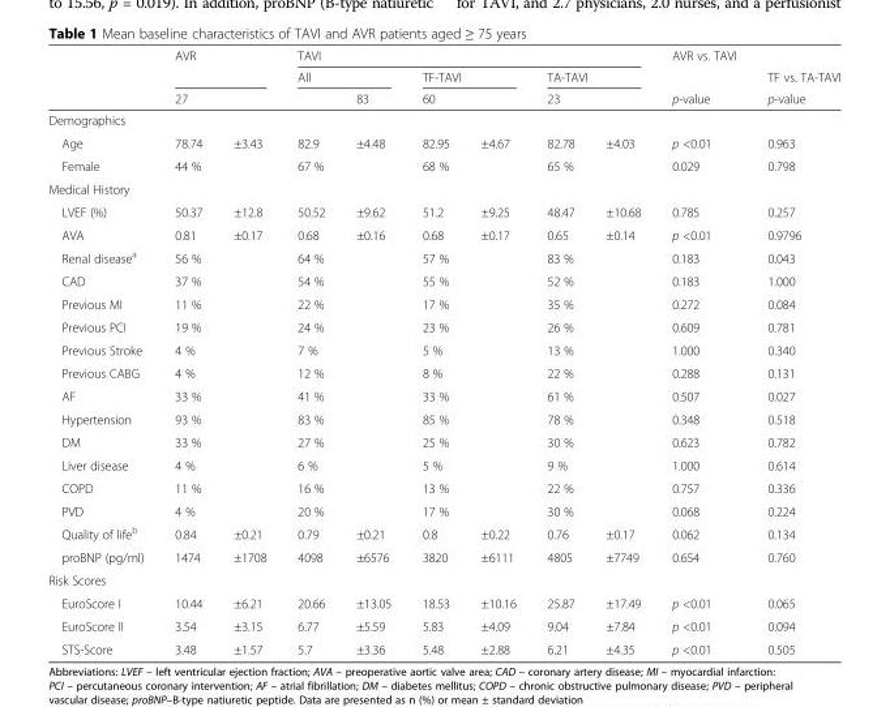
<table><thead><tr><td rowspan="4">Demographics</td><td rowspan="2">AVR</td><td rowspan="2"></td><td colspan="6">TAVI</td><td rowspan="4">AVR vs. TAVI p-value</td><td rowspan="4">TF vs. TA-TAVI p-value</td></tr><tr><td colspan="2">All</td><td rowspan="2" colspan="2">TF-TAVI 60</td><td rowspan="2" colspan="2">TA-TAVI 23</td></tr><tr><td colspan="2">27</td><td rowspan="2"></td><td rowspan="2">83</td></tr><tr><td></td><td></td><td></td><td></td><td></td><td></td></tr></thead><tbody><tr><td>Age</td><td>78.74</td><td>±3.43</td><td>82.9</td><td>±4.48</td><td>82.95</td><td>±4.67</td><td>82.78</td><td>±4.03</td><td>p &lt;0.01</td><td>0.963</td></tr><tr><td>Female</td><td>44 %</td><td></td><td>67 %</td><td></td><td>68 %</td><td></td><td>65 %</td><td></td><td>0.029</td><td>0.798</td></tr><tr><td colspan="11">Medical History</td></tr><tr><td>LVEF (%)</td><td>50.37</td><td>±12.8</td><td>50.52</td><td>±9.62</td><td>51.2</td><td>±9.25</td><td>48.47</td><td>±10.68</td><td>0.785</td><td>0.257</td></tr><tr><td>AVA</td><td>0.81</td><td>±0.17</td><td>0.68</td><td>±0.16</td><td>0.68</td><td>±0.17</td><td>0.65</td><td>±0.14</td><td>p &lt;0.01</td><td>0.9796</td></tr><tr><td>Renal disease<sup>a</sup></td><td>56 %</td><td></td><td>64 %</td><td></td><td>57 %</td><td></td><td>83 %</td><td></td><td>0.183</td><td>0.043</td></tr><tr><td>CAD</td><td>37 %</td><td></td><td>54 %</td><td></td><td>55 %</td><td></td><td>52 %</td><td></td><td>0.183</td><td>1.000</td></tr><tr><td>Previous MI</td><td>11 %</td><td></td><td>22 %</td><td></td><td>17 %</td><td></td><td>35 %</td><td></td><td>0.272</td><td>0.084</td></tr><tr><td>Previous PCI</td><td>19 %</td><td></td><td>24 %</td><td></td><td>23 %</td><td></td><td>26 %</td><td></td><td>0.609</td><td>0.781</td></tr><tr><td>Previous Stroke</td><td>4 %</td><td></td><td>7 %</td><td></td><td>5 %</td><td></td><td>13 %</td><td></td><td>1.000</td><td>0.340</td></tr><tr><td>Previous CABG</td><td>4 %</td><td></td><td>12 %</td><td></td><td>8 %</td><td></td><td>22 %</td><td></td><td>0.288</td><td>0.131</td></tr><tr><td>AF</td><td>33 %</td><td></td><td>41 %</td><td></td><td>33 %</td><td></td><td>61 %</td><td></td><td>0.507</td><td>0.027</td></tr><tr><td>Hypertension</td><td>93 %</td><td></td><td>83 %</td><td></td><td>85 %</td><td></td><td>78 %</td><td></td><td>0.348</td><td>0.518</td></tr><tr><td>DM</td><td>33 %</td><td></td><td>27 %</td><td></td><td>25 %</td><td></td><td>30 %</td><td></td><td>0.623</td><td>0.782</td></tr><tr><td>Liver disease</td><td>4 %</td><td></td><td>6 %</td><td></td><td>5 %</td><td></td><td>9 %</td><td></td><td>1.000</td><td>0.614</td></tr><tr><td>COPD</td><td>11 %</td><td></td><td>16 %</td><td></td><td>13 %</td><td></td><td>22 %</td><td></td><td>0.757</td><td>0.336</td></tr><tr><td>PVD</td><td>4 %</td><td></td><td>20 %</td><td></td><td>17 %</td><td></td><td>30 %</td><td></td><td>0.068</td><td>0.224</td></tr><tr><td>Quality of life<sup>b</sup></td><td>0.84</td><td>±0.21</td><td>0.79</td><td>±0.21</td><td>0.8</td><td>±0.22</td><td>0.76</td><td>±0.17</td><td>0.062</td><td>0.134</td></tr><tr><td>proBNP (pg/ml)</td><td>1474</td><td>±1708</td><td>4098</td><td>±6576</td><td>3820</td><td>±6111</td><td>4805</td><td>±7749</td><td>0.654</td><td>0.760</td></tr><tr><td colspan="11">Risk Scores</td></tr><tr><td>EuroScore I</td><td>10.44</td><td>±6.21</td><td>20.66</td><td>±13.05</td><td>18.53</td><td>±10.16</td><td>25.87</td><td>±17.49</td><td>p &lt;0.01</td><td>0.065</td></tr><tr><td>EuroScore II</td><td>3.54</td><td>±3.15</td><td>6.77</td><td>±5.59</td><td>5.83</td><td>±4.09</td><td>9.04</td><td>±7.84</td><td>p &lt;0.01</td><td>0.094</td></tr><tr><td>STS-Score</td><td>3.48</td><td>±1.57</td><td>5.7</td><td>±3.36</td><td>5.48</td><td>±2.88</td><td>6.21</td><td>±4.35</td><td>p &lt;0.01</td><td>0.505</td></tr></tbody></table>